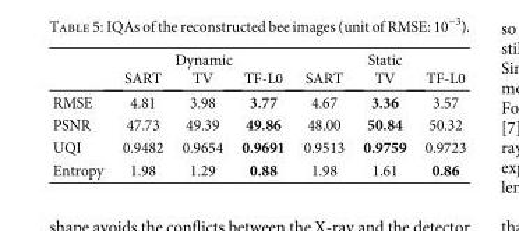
<table><thead><tr><td rowspan="2"></td><td colspan="3">Dynamic</td><td colspan="3">Static</td></tr><tr><td>SART</td><td>TV</td><td>TF-L0</td><td>SART</td><td>TV</td><td>TF-L0</td></tr></thead><tbody><tr><td>RMSE</td><td>4.81</td><td>3.98</td><td>3.77</td><td>4.67</td><td>3.36</td><td>3.57</td></tr><tr><td>PSNR</td><td>47.73</td><td>49.39</td><td>49.86</td><td>48.00</td><td>50.84</td><td>50.32</td></tr><tr><td>UQI</td><td>0.9482</td><td>0.9654</td><td>0.9691</td><td>0.9513</td><td>0.9759</td><td>0.9723</td></tr><tr><td>Entropy</td><td>1.98</td><td>1.29</td><td>0.88</td><td>1.98</td><td>1.61</td><td>0.86</td></tr></tbody></table>